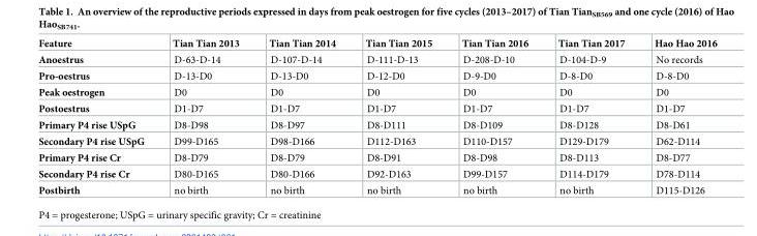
<table><thead><tr><td>Feature</td><td>Tian Tian 2013</td><td>Tian Tian 2014</td><td>Tian Tian 2015</td><td>Tian Tian 2016</td><td>Tian Tian 2017</td><td>Hao Hao 2016</td></tr></thead><tbody><tr><td>Anoestrus</td><td>D-63-D-14</td><td>D-107-D-14</td><td>D-111-D-13</td><td>D-208-D-10</td><td>D-104-D-9</td><td>No records</td></tr><tr><td>Pro-oestrus</td><td>D-13-D0</td><td>D-13-D0</td><td>D-12-D0</td><td>D-9-D0</td><td>D-8-D0</td><td>D-8-D0</td></tr><tr><td>Peak oestrogen</td><td>D0</td><td>D0</td><td>D0</td><td>D0</td><td>D0</td><td>D0</td></tr><tr><td>Postoestrus</td><td>D1-D7</td><td>D1-D7</td><td>D1-D7</td><td>D1-D7</td><td>D1-D7</td><td>D1-D7</td></tr><tr><td>Primary P4 rise USpG</td><td>D8-D98</td><td>D8-D97</td><td>D8-D111</td><td>D8-D109</td><td>D8-D128</td><td>D8-D61</td></tr><tr><td>Secondary P4 rise USpG</td><td>D99-D165</td><td>D98-D166</td><td>D112-D163</td><td>D110-D157</td><td>D129-D179</td><td>D62-D114</td></tr><tr><td>Primary P4 rise Cr</td><td>D8-D79</td><td>D8-D79</td><td>D8-D91</td><td>D8-D98</td><td>D8-D113</td><td>D8-D77</td></tr><tr><td>Secondary P4 rise Cr</td><td>D80-D165</td><td>D80-D166</td><td>D92-D163</td><td>D99-D157</td><td>D114-D179</td><td>D78-D114</td></tr><tr><td>Postbirth</td><td>no birth</td><td>no birth</td><td>no birth</td><td>no birth</td><td>no birth</td><td>D115-D126</td></tr></tbody></table>